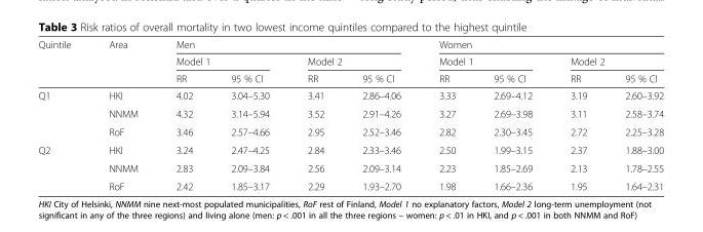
<table><thead><tr><td rowspan="3">Quintile</td><td rowspan="3">Area</td><td colspan="4">Men</td><td colspan="4">Women</td></tr><tr><td colspan="2">Model 1</td><td colspan="2">Model 2</td><td colspan="2">Model 1</td><td colspan="2">Model 2</td></tr><tr><td>RR</td><td>95 % Cl</td><td>RR</td><td>95 % Cl</td><td>RR</td><td>95 % Cl</td><td>RR</td><td>95 % Cl</td></tr></thead><tbody><tr><td rowspan="3">Q1</td><td>HKI</td><td>4.02</td><td>3.04–5.30</td><td>3.41</td><td>2.86–4.06</td><td>3.33</td><td>2.69–4.12</td><td>3.19</td><td>2.60–3.92</td></tr><tr><td>NNMM</td><td>4.32</td><td>3.14–5.94</td><td>3.52</td><td>2.91–4.26</td><td>3.27</td><td>2.69–3.98</td><td>3.11</td><td>2.58–3.74</td></tr><tr><td>RoF</td><td>3.46</td><td>2.57–4.66</td><td>2.95</td><td>2.52–3.46</td><td>2.82</td><td>2.30–3.45</td><td>2.72</td><td>2.25–3.28</td></tr><tr><td rowspan="3">Q2</td><td>HKI</td><td>3.24</td><td>2.47–4.25</td><td>2.84</td><td>2.33–3.46</td><td>2.50</td><td>1.99–3.15</td><td>2.37</td><td>1.88–3.00</td></tr><tr><td>NNMM</td><td>2.83</td><td>2.09–3.84</td><td>2.56</td><td>2.09–3.14</td><td>2.23</td><td>1.85–2.69</td><td>2.13</td><td>1.78–2.55</td></tr><tr><td>RoF</td><td>2.42</td><td>1.85–3.17</td><td>2.29</td><td>1.93–2.70</td><td>1.98</td><td>1.66–2.36</td><td>1.95</td><td>1.64–2.31</td></tr></tbody></table>